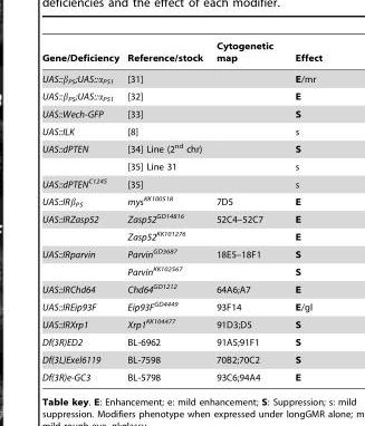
<table><thead><tr><td>Gene/Deficiency</td><td>Reference/stock</td><td>Cytogenetic map</td><td>Effect</td></tr></thead><tbody><tr><td>UAS::β<sub>PS</sub>;UAS::α<sub>PS1</sub></td><td>[31]</td><td></td><td>E/mr</td></tr><tr><td>UAS::β<sub>PS</sub>;UAS::α<sub>PS1</sub></td><td>[32]</td><td></td><td>E</td></tr><tr><td>UAS::Wech-GFP</td><td>[33]</td><td></td><td>S</td></tr><tr><td>UAS::ILK</td><td>[8]</td><td></td><td>s</td></tr><tr><td rowspan="2">UAS::dPTEN</td><td>[34] Line (2<sup>nd</sup> chr)</td><td></td><td>S</td></tr><tr><td>[35] Line 31</td><td></td><td>s</td></tr><tr><td>UAS::dPTEN<sup>C124S</sup></td><td>[35]</td><td></td><td>s</td></tr><tr><td>UAS::IRβ<sub>PS</sub></td><td>mys<sup>KK100518</sup></td><td>7D5</td><td>E</td></tr><tr><td rowspan="2">UAS::IRZasp52</td><td>Zasp52<sup>GD14816</sup></td><td>52C4–52C7</td><td>E</td></tr><tr><td>Zasp52<sup>KK101276</sup></td><td></td><td>E</td></tr><tr><td rowspan="2">UAS::IRparvin</td><td>Parvin<sup>GD3687</sup></td><td>18E5–18F1</td><td>S</td></tr><tr><td>Parvin<sup>KK102567</sup></td><td></td><td>S</td></tr><tr><td>UAS::IRChd64</td><td>Chd64<sup>GD1212</sup></td><td>64A6;A7</td><td>E</td></tr><tr><td>UAS::IREip93F</td><td>Eip93F<sup>GD4449</sup></td><td>93F14</td><td>E/gl</td></tr><tr><td>UAS::IRXrp1</td><td>Xrp1<sup>KK104477</sup></td><td>91D3;D5</td><td>S</td></tr><tr><td>Df(3R)ED2</td><td>BL-6962</td><td>91A5;91F1</td><td>S</td></tr><tr><td>Df(3L)Exel6119</td><td>BL-7598</td><td>70B2;70C2</td><td>S</td></tr><tr><td>Df(3R)e-GC3</td><td>BL-5798</td><td>93C6;94A4</td><td>E</td></tr></tbody></table>